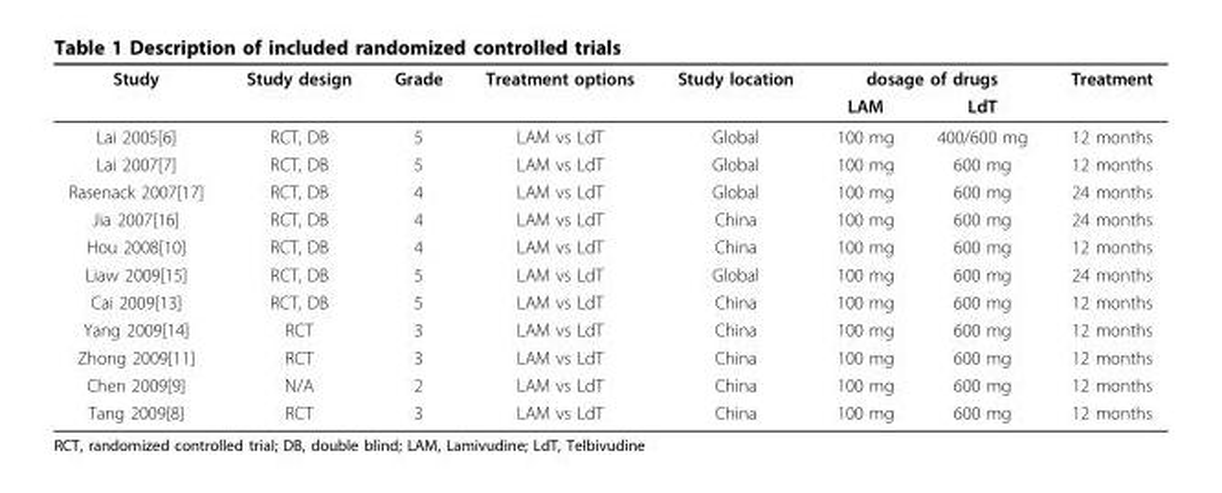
<table><thead><tr><td rowspan="2">Study</td><td rowspan="2">Study design</td><td rowspan="2">Grade</td><td rowspan="2">Treatment options</td><td rowspan="2">Study location</td><td colspan="2">dosage of drugs</td><td rowspan="2">Treatment</td></tr><tr><td>LAM</td><td>LdT</td></tr></thead><tbody><tr><td>Lai 2005[6]</td><td>RCT, DB</td><td>5</td><td>LAM vs LdT</td><td>Global</td><td>100 mg</td><td>400/600 mg</td><td>12 months</td></tr><tr><td>Lai 2007[7]</td><td>RCT, DB</td><td>5</td><td>LAM vs LdT</td><td>Global</td><td>100 mg</td><td>600 mg</td><td>12 months</td></tr><tr><td>Rasenack 2007[17]</td><td>RCT, DB</td><td>4</td><td>LAM vs LdT</td><td>Global</td><td>100 mg</td><td>600 mg</td><td>24 months</td></tr><tr><td>Jia 2007[16]</td><td>RCT, DB</td><td>4</td><td>LAM vs LdT</td><td>China</td><td>100 mg</td><td>600 mg</td><td>24 months</td></tr><tr><td>Hou 2008[10]</td><td>RCT, DB</td><td>4</td><td>LAM vs LdT</td><td>China</td><td>100 mg</td><td>600 mg</td><td>12 months</td></tr><tr><td>Liaw 2009[15]</td><td>RCT, DB</td><td>5</td><td>LAM vs LdT</td><td>Global</td><td>100 mg</td><td>600 mg</td><td>24 months</td></tr><tr><td>Cai 2009[13]</td><td>RCT, DB</td><td>5</td><td>LAM vs LdT</td><td>China</td><td>100 mg</td><td>600 mg</td><td>12 months</td></tr><tr><td>Yang 2009[14]</td><td>RCT</td><td>3</td><td>LAM vs LdT</td><td>China</td><td>100 mg</td><td>600 mg</td><td>12 months</td></tr><tr><td>Zhong 2009[11]</td><td>RCT</td><td>3</td><td>LAM vs LdT</td><td>China</td><td>100 mg</td><td>600 mg</td><td>12 months</td></tr><tr><td>Chen 2009[9]</td><td>N/A</td><td>2</td><td>LAM vs LdT</td><td>China</td><td>100 mg</td><td>600 mg</td><td>12 months</td></tr><tr><td>Tang 2009[8]</td><td>RCT</td><td>3</td><td>LAM vs LdT</td><td>China</td><td>100 mg</td><td>600 mg</td><td>12 months</td></tr></tbody></table>